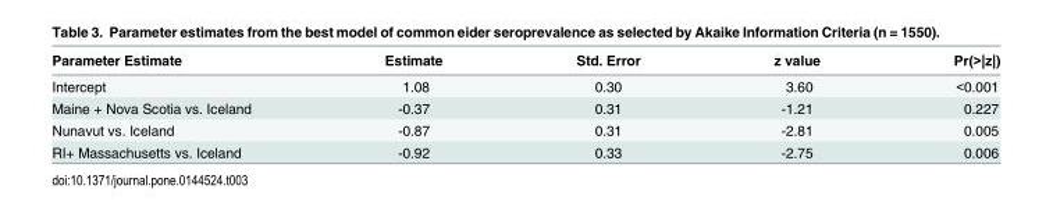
<table><thead><tr><td>Parameter Estimate</td><td>Estimate</td><td>Std. Error</td><td>z value</td><td>Pr(&gt;|z|)</td></tr></thead><tbody><tr><td>Intercept</td><td>1.08</td><td>0.30</td><td>3.60</td><td>&lt;0.001</td></tr><tr><td>Maine + Nova Scotia vs. Iceland</td><td>-0.37</td><td>0.31</td><td>-1.21</td><td>0.227</td></tr><tr><td>Nunavut vs. Iceland</td><td>-0.87</td><td>0.31</td><td>-2.81</td><td>0.005</td></tr><tr><td>RI+ Massachusetts vs. Iceland</td><td>-0.92</td><td>0.33</td><td>-2.75</td><td>0.006</td></tr></tbody></table>